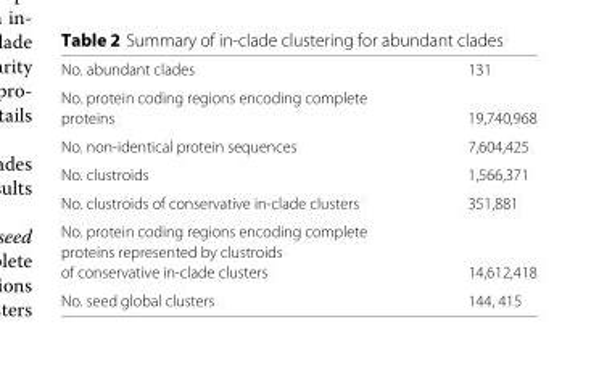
<table><tbody><tr><td>No. abundant clades</td><td>131</td></tr><tr><td colspan="2">No. protein coding regions encoding complete</td></tr><tr><td>proteins</td><td>19,740,968</td></tr><tr><td>No. non-identical protein sequences</td><td>7,604,425</td></tr><tr><td>No. clustroids</td><td>1,566,371</td></tr><tr><td>No. clustroids of conservative in-clade clusters</td><td>351,881</td></tr><tr><td colspan="2">No. protein coding regions encoding complete</td></tr><tr><td colspan="2">proteins represented by clustroids</td></tr><tr><td>of conservative in-clade clusters</td><td>14,612,418</td></tr><tr><td>No. seed global clusters</td><td>144, 415</td></tr></tbody></table>